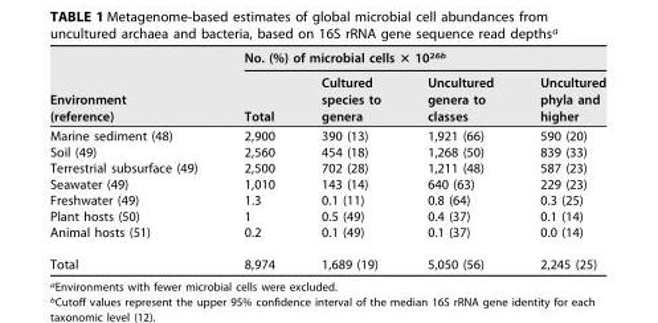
<table><thead><tr><td rowspan="2">Environment (reference)</td><td colspan="4">No. (%) of microbial cells × 10<sup>26b</sup></td></tr><tr><td>Total</td><td>Cultured species to genera</td><td>Uncultured genera to classes</td><td>Uncultured phyla and higher</td></tr></thead><tbody><tr><td>Marine sediment (48)</td><td>2,900</td><td>390 (13)</td><td>1,921 (66)</td><td>590 (20)</td></tr><tr><td>Soil (49)</td><td>2,560</td><td>454 (18)</td><td>1,268 (50)</td><td>839 (33)</td></tr><tr><td>Terrestrial subsurface (49)</td><td>2,500</td><td>702 (28)</td><td>1,211 (48)</td><td>587 (23)</td></tr><tr><td>Seawater (49)</td><td>1,010</td><td>143 (14)</td><td>640 (63)</td><td>229 (23)</td></tr><tr><td>Freshwater (49)</td><td>1.3</td><td>0.1 (11)</td><td>0.8 (64)</td><td>0.3 (25)</td></tr><tr><td>Plant hosts (50)</td><td>1</td><td>0.5 (49)</td><td>0.4 (37)</td><td>0.1 (14)</td></tr><tr><td>Animal hosts (51)</td><td>0.2</td><td>0.1 (49)</td><td>0.1 (37)</td><td>0.0 (14)</td></tr><tr><td>Total</td><td>8,974</td><td>1,689 (19)</td><td>5,050 (56)</td><td>2,245 (25)</td></tr></tbody></table>